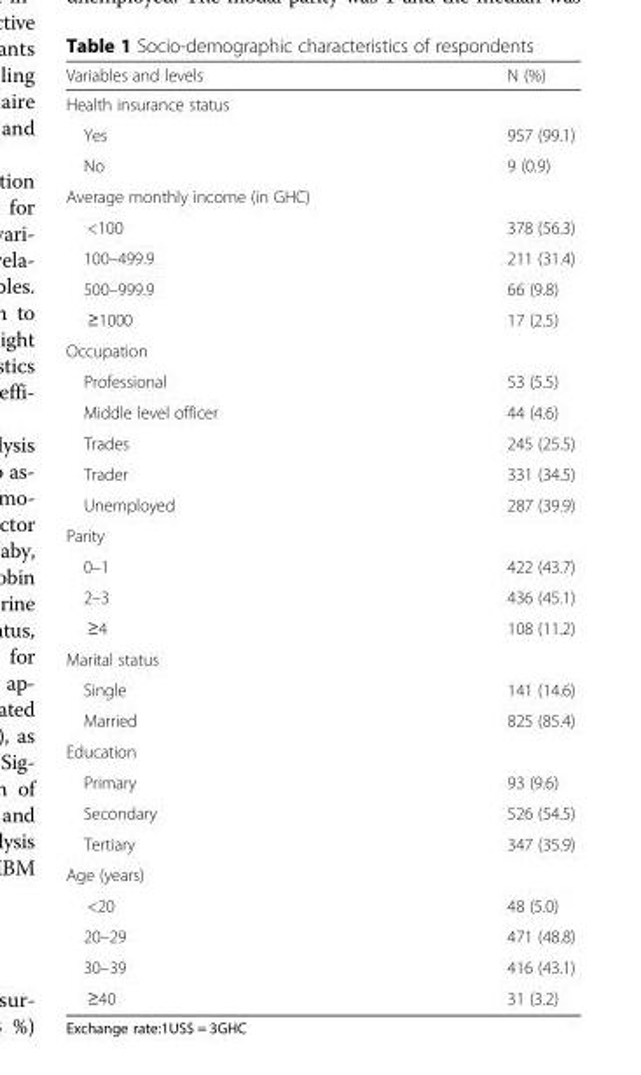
<table><thead><tr><td>Variables and levels</td><td>N (%)</td></tr></thead><tbody><tr><td colspan="2">Health insurance status</td></tr><tr><td>Yes</td><td>957 (99.1)</td></tr><tr><td>No</td><td>9 (0.9)</td></tr><tr><td colspan="2">Average monthly income (in GHC)</td></tr><tr><td>&lt;100</td><td>378 (56.3)</td></tr><tr><td>100–499.9</td><td>211 (31.4)</td></tr><tr><td>500–999.9</td><td>66 (9.8)</td></tr><tr><td>≥1000</td><td>17 (2.5)</td></tr><tr><td colspan="2">Occupation</td></tr><tr><td>Professional</td><td>53 (5.5)</td></tr><tr><td>Middle level officer</td><td>44 (4.6)</td></tr><tr><td>Trades</td><td>245 (25.5)</td></tr><tr><td>Trader</td><td>331 (34.5)</td></tr><tr><td>Unemployed</td><td>287 (39.9)</td></tr><tr><td colspan="2">Parity</td></tr><tr><td>0–1</td><td>422 (43.7)</td></tr><tr><td>2–3</td><td>436 (45.1)</td></tr><tr><td>≥4</td><td>108 (11.2)</td></tr><tr><td colspan="2">Marital status</td></tr><tr><td>Single</td><td>141 (14.6)</td></tr><tr><td>Married</td><td>825 (85.4)</td></tr><tr><td colspan="2">Education</td></tr><tr><td>Primary</td><td>93 (9.6)</td></tr><tr><td>Secondary</td><td>526 (54.5)</td></tr><tr><td>Tertiary</td><td>347 (35.9)</td></tr><tr><td colspan="2">Age (years)</td></tr><tr><td>&lt;20</td><td>48 (5.0)</td></tr><tr><td>20–29</td><td>471 (48.8)</td></tr><tr><td>30–39</td><td>416 (43.1)</td></tr><tr><td>≥40</td><td>31 (3.2)</td></tr></tbody></table>